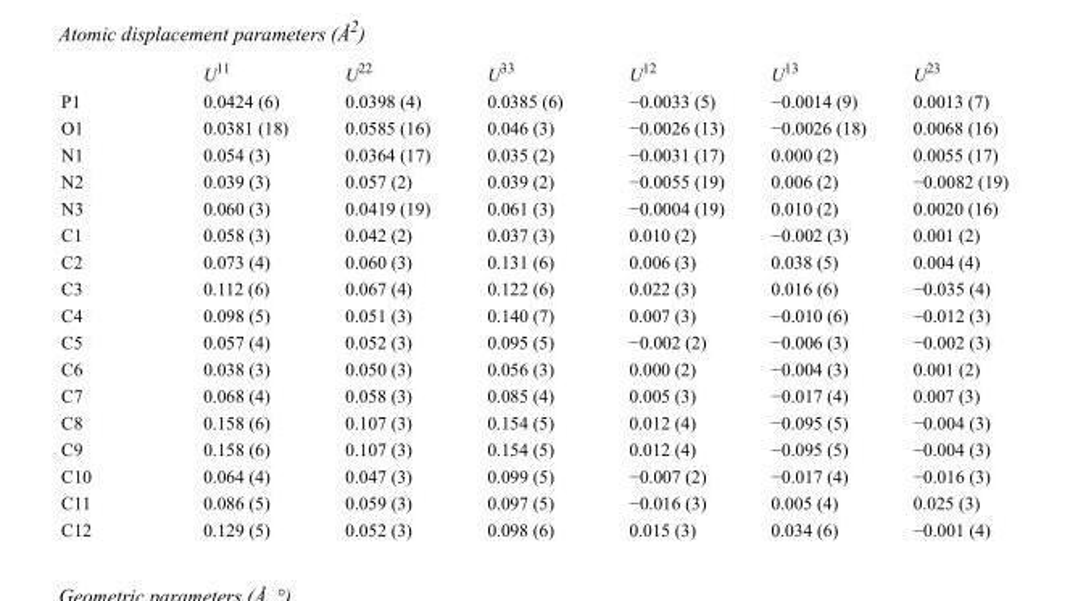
<table><thead><tr><td></td><td>U<sup>11</sup></td><td>U<sup>22</sup></td><td>U<sup>33</sup></td><td>U<sup>12</sup></td><td>U<sup>13</sup></td><td>U<sup>23</sup></td></tr></thead><tbody><tr><td>P1</td><td>0.0424 (6)</td><td>0.0398 (4)</td><td>0.0385 (6)</td><td>−0.0033 (5)</td><td>−0.0014 (9)</td><td>0.0013 (7)</td></tr><tr><td>O1</td><td>0.0381 (18)</td><td>0.0585 (16)</td><td>0.046 (3)</td><td>−0.0026 (13)</td><td>−0.0026 (18)</td><td>0.0068 (16)</td></tr><tr><td>N1</td><td>0.054 (3)</td><td>0.0364 (17)</td><td>0.035 (2)</td><td>−0.0031 (17)</td><td>0.000 (2)</td><td>0.0055 (17)</td></tr><tr><td>N2</td><td>0.039 (3)</td><td>0.057 (2)</td><td>0.039 (2)</td><td>−0.0055 (19)</td><td>0.006 (2)</td><td>−0.0082 (19)</td></tr><tr><td>N3</td><td>0.060 (3)</td><td>0.0419 (19)</td><td>0.061 (3)</td><td>−0.0004 (19)</td><td>0.010 (2)</td><td>0.0020 (16)</td></tr><tr><td>C1</td><td>0.058 (3)</td><td>0.042 (2)</td><td>0.037 (3)</td><td>0.010 (2)</td><td>−0.002 (3)</td><td>0.001 (2)</td></tr><tr><td>C2</td><td>0.073 (4)</td><td>0.060 (3)</td><td>0.131 (6)</td><td>0.006 (3)</td><td>0.038 (5)</td><td>0.004 (4)</td></tr><tr><td>C3</td><td>0.112 (6)</td><td>0.067 (4)</td><td>0.122 (6)</td><td>0.022 (3)</td><td>0.016 (6)</td><td>−0.035 (4)</td></tr><tr><td>C4</td><td>0.098 (5)</td><td>0.051 (3)</td><td>0.140 (7)</td><td>0.007 (3)</td><td>−0.010 (6)</td><td>−0.012 (3)</td></tr><tr><td>C5</td><td>0.057 (4)</td><td>0.052 (3)</td><td>0.095 (5)</td><td>−0.002 (2)</td><td>−0.006 (3)</td><td>−0.002 (3)</td></tr><tr><td>C6</td><td>0.038 (3)</td><td>0.050 (3)</td><td>0.056 (3)</td><td>0.000 (2)</td><td>−0.004 (3)</td><td>0.001 (2)</td></tr><tr><td>C7</td><td>0.068 (4)</td><td>0.058 (3)</td><td>0.085 (4)</td><td>0.005 (3)</td><td>−0.017 (4)</td><td>0.007 (3)</td></tr><tr><td>C8</td><td>0.158 (6)</td><td>0.107 (3)</td><td>0.154 (5)</td><td>0.012 (4)</td><td>−0.095 (5)</td><td>−0.004 (3)</td></tr><tr><td>C9</td><td>0.158 (6)</td><td>0.107 (3)</td><td>0.154 (5)</td><td>0.012 (4)</td><td>−0.095 (5)</td><td>−0.004 (3)</td></tr><tr><td>C10</td><td>0.064 (4)</td><td>0.047 (3)</td><td>0.099 (5)</td><td>−0.007 (2)</td><td>−0.017 (4)</td><td>−0.016 (3)</td></tr><tr><td>C11</td><td>0.086 (5)</td><td>0.059 (3)</td><td>0.097 (5)</td><td>−0.016 (3)</td><td>0.005 (4)</td><td>0.025 (3)</td></tr><tr><td>C12</td><td>0.129 (5)</td><td>0.052 (3)</td><td>0.098 (6)</td><td>0.015 (3)</td><td>0.034 (6)</td><td>−0.001 (4)</td></tr></tbody></table>